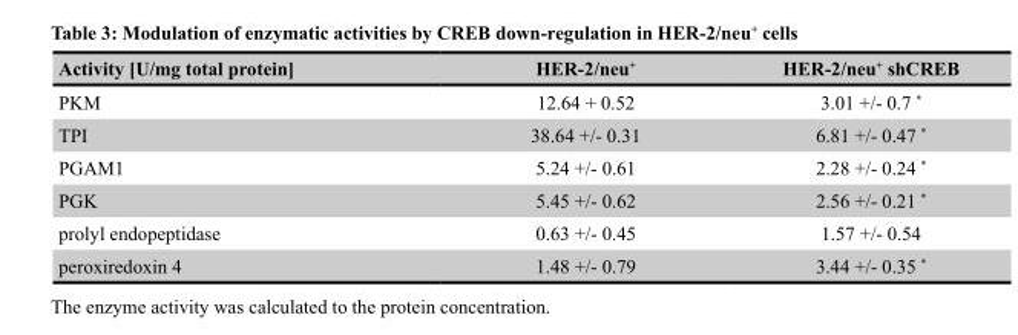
<table><thead><tr><td>Activity [U/mg total protein]</td><td>HER-2/neu<sup>+</sup></td><td>HER-2/neu<sup>+</sup> shCREB</td></tr></thead><tbody><tr><td>PKM</td><td>12.64 + 0.52</td><td>3.01 +/- 0.7 *</td></tr><tr><td>TPI</td><td>38.64 +/- 0.31</td><td>6.81 +/- 0.47 *</td></tr><tr><td>PGAM1</td><td>5.24 +/- 0.61</td><td>2.28 +/- 0.24 *</td></tr><tr><td>PGK</td><td>5.45 +/- 0.62</td><td>2.56 +/- 0.21 *</td></tr><tr><td>prolyl endopeptidase</td><td>0.63 +/- 0.45</td><td>1.57 +/- 0.54</td></tr><tr><td>peroxiredoxin 4</td><td>1.48 +/- 0.79</td><td>3.44 +/- 0.35 *</td></tr></tbody></table>